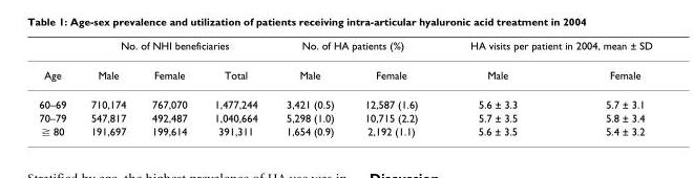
<table><thead><tr><td rowspan="2">Age</td><td colspan="3">No. of NHI beneficiaries</td><td colspan="2">No. of HA patients (%)</td><td colspan="2">HA visits per patient in 2004, mean ± SD</td></tr><tr><td>Male</td><td>Female</td><td>Total</td><td>Male</td><td>Female</td><td>Male</td><td>Female</td></tr></thead><tbody><tr><td>60–69</td><td>710,174</td><td>767,070</td><td>1,477,244</td><td>3,421 (0.5)</td><td>12,587 (1.6)</td><td>5.6 ± 3.3</td><td>5.7 ± 3.1</td></tr><tr><td>70–79</td><td>547,817</td><td>492,487</td><td>1,040,664</td><td>5,298 (1.0)</td><td>10,715 (2.2)</td><td>5.7 ± 3.5</td><td>5.8 ± 3.4</td></tr><tr><td>≧ 80</td><td>191,697</td><td>199,614</td><td>391,311</td><td>1,654 (0.9)</td><td>2,192 (1.1)</td><td>5.6 ± 3.5</td><td>5.4 ± 3.2</td></tr></tbody></table>